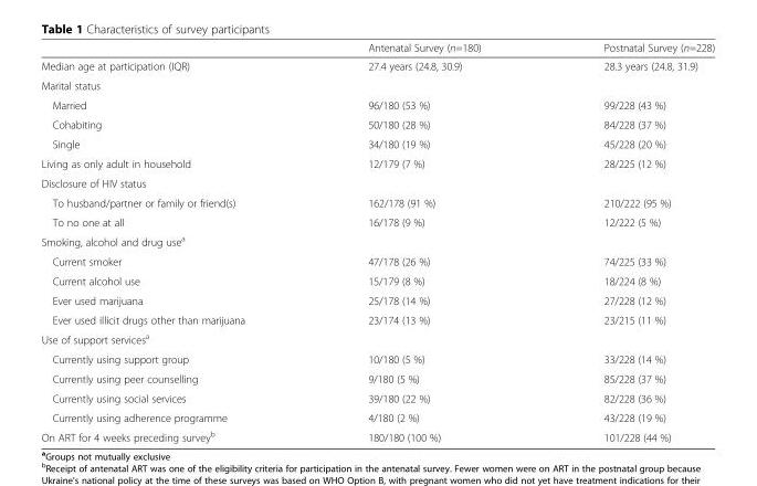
<table><thead><tr><td></td><td>Antenatal Survey (n=180)</td><td>Postnatal Survey (n=228)</td></tr></thead><tbody><tr><td>Median age at participation (IQR)</td><td>27.4 years (24.8, 30.9)</td><td>28.3 years (24.8, 31.9)</td></tr><tr><td colspan="3">Marital status</td></tr><tr><td>Married</td><td>96/180 (53 %)</td><td>99/228 (43 %)</td></tr><tr><td>Cohabiting</td><td>50/180 (28 %)</td><td>84/228 (37 %)</td></tr><tr><td>Single</td><td>34/180 (19 %)</td><td>45/228 (20 %)</td></tr><tr><td>Living as only adult in household</td><td>12/179 (7 %)</td><td>28/225 (12 %)</td></tr><tr><td colspan="3">Disclosure of HIV status</td></tr><tr><td>To husband/partner or family or friend(s)</td><td>162/178 (91 %)</td><td>210/222 (95 %)</td></tr><tr><td>To no one at all</td><td>16/178 (9 %)</td><td>12/222 (5 %)</td></tr><tr><td colspan="3">Smoking, alcohol and drug use<sup>a</sup></td></tr><tr><td>Current smoker</td><td>47/178 (26 %)</td><td>74/225 (33 %)</td></tr><tr><td>Current alcohol use</td><td>15/179 (8 %)</td><td>18/224 (8 %)</td></tr><tr><td>Ever used marijuana</td><td>25/178 (14 %)</td><td>27/228 (12 %)</td></tr><tr><td>Ever used illicit drugs other than marijuana</td><td>23/174 (13 %)</td><td>23/215 (11 %)</td></tr><tr><td colspan="3">Use of support services<sup>a</sup></td></tr><tr><td>Currently using support group</td><td>10/180 (5 %)</td><td>33/228 (14 %)</td></tr><tr><td>Currently using peer counselling</td><td>9/180 (5 %)</td><td>85/228 (37 %)</td></tr><tr><td>Currently using social services</td><td>39/180 (22 %)</td><td>82/228 (36 %)</td></tr><tr><td>Currently using adherence programme</td><td>4/180 (2 %)</td><td>43/228 (19 %)</td></tr><tr><td>On ART for 4 weeks preceding survey<sup>b</sup></td><td>180/180 (100 %)</td><td>101/228 (44 %)</td></tr></tbody></table>